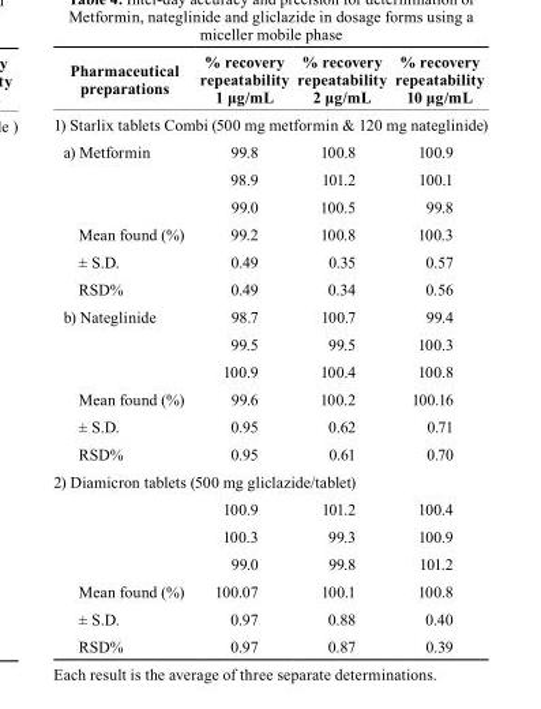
<table><thead><tr><td>Pharmaceutical preparations</td><td>% recovery repeatability 1 μg/mL</td><td>% recovery repeatability 2 μg/mL</td><td>% recovery repeatability 10 μg/mL</td></tr></thead><tbody><tr><td colspan="4">1) Starlix tablets Combi (500 mg metformin &amp; 120 mg nateglinide)</td></tr><tr><td rowspan="3">a) Metformin</td><td>99.8</td><td>100.8</td><td>100.9</td></tr><tr><td>98.9</td><td>101.2</td><td>100.1</td></tr><tr><td>99.0</td><td>100.5</td><td>99.8</td></tr><tr><td>Mean found (%)</td><td>99.2</td><td>100.8</td><td>100.3</td></tr><tr><td>± S.D.</td><td>0.49</td><td>0.35</td><td>0.57</td></tr><tr><td>RSD%</td><td>0.49</td><td>0.34</td><td>0.56</td></tr><tr><td rowspan="3">b) Nateglinide</td><td>98.7</td><td>100.7</td><td>99.4</td></tr><tr><td>99.5</td><td>99.5</td><td>100.3</td></tr><tr><td>100.9</td><td>100.4</td><td>100.8</td></tr><tr><td>Mean found (%)</td><td>99.6</td><td>100.2</td><td>100.16</td></tr><tr><td>± S.D.</td><td>0.95</td><td>0.62</td><td>0.71</td></tr><tr><td>RSD%</td><td>0.95</td><td>0.61</td><td>0.70</td></tr><tr><td colspan="4">2) Diamicron tablets (500 mg gliclazide/tablet)</td></tr><tr><td></td><td>100.9</td><td>101.2</td><td>100.4</td></tr><tr><td></td><td>100.3</td><td>99.3</td><td>100.9</td></tr><tr><td></td><td>99.0</td><td>99.8</td><td>101.2</td></tr><tr><td>Mean found (%)</td><td>100.07</td><td>100.1</td><td>100.8</td></tr><tr><td>± S.D.</td><td>0.97</td><td>0.88</td><td>0.40</td></tr><tr><td>RSD%</td><td>0.97</td><td>0.87</td><td>0.39</td></tr></tbody></table>